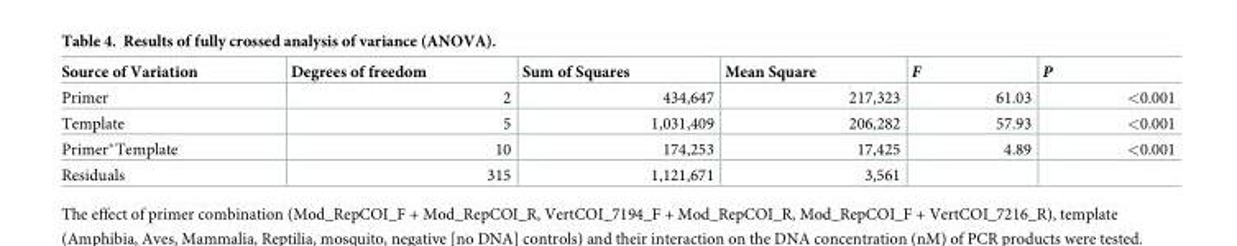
<table><thead><tr><td>Source of Variation</td><td>Degrees of freedom</td><td>Sum of Squares</td><td>Mean Square</td><td>F</td><td>P</td></tr></thead><tbody><tr><td>Primer</td><td>2</td><td>434,647</td><td>217,323</td><td>61.03</td><td>&lt;0.001</td></tr><tr><td>Template</td><td>5</td><td>1,031,409</td><td>206,282</td><td>57.93</td><td>&lt;0.001</td></tr><tr><td>Primer*Template</td><td>10</td><td>174,253</td><td>17,425</td><td>4.89</td><td>&lt;0.001</td></tr><tr><td>Residuals</td><td>315</td><td>1,121,671</td><td>3,561</td><td></td><td></td></tr></tbody></table>